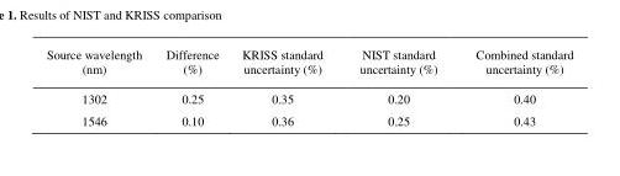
<table><thead><tr><td>Source wavelength (nm)</td><td>Difference (%)</td><td>KRISS standard uncertainty (%)</td><td>NIST standard uncertainty (%)</td><td>Combined standard uncertainty (%)</td></tr></thead><tbody><tr><td>1302</td><td>0.25</td><td>0.35</td><td>0.20</td><td>0.40</td></tr><tr><td>1546</td><td>0.10</td><td>0.36</td><td>0.25</td><td>0.43</td></tr></tbody></table>